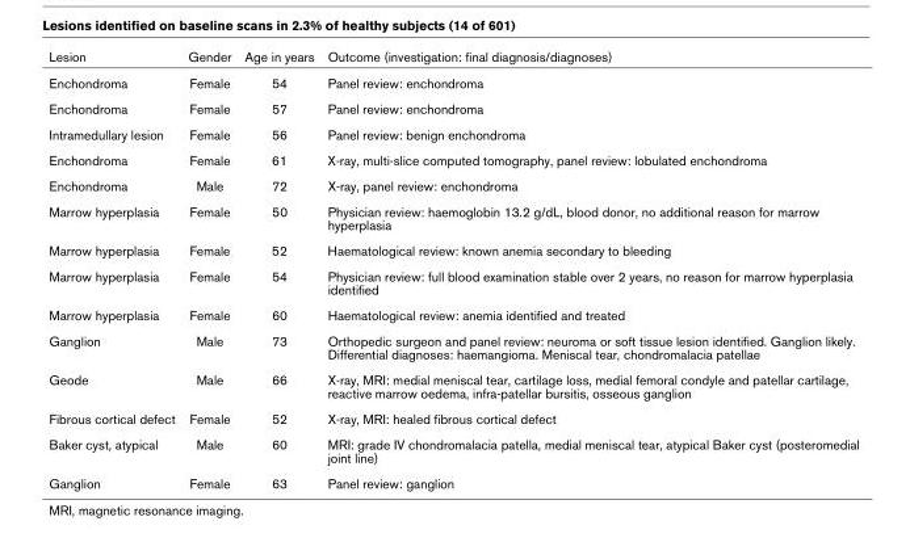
<table><thead><tr><td>Lesion</td><td>Gender</td><td>Age in years</td><td>Outcome (investigation: final diagnosis/diagnoses)</td></tr></thead><tbody><tr><td>Enchondroma</td><td>Female</td><td>54</td><td>Panel review: enchondroma</td></tr><tr><td>Enchondroma</td><td>Female</td><td>57</td><td>Panel review: enchondroma</td></tr><tr><td>Intramedullary lesion</td><td>Female</td><td>56</td><td>Panel review: benign enchondroma</td></tr><tr><td>Enchondroma</td><td>Female</td><td>61</td><td>X-ray, multi-slice computed tomography, panel review: lobulated enchondroma</td></tr><tr><td>Enchondroma</td><td>Male</td><td>72</td><td>X-ray, panel review: enchondroma</td></tr><tr><td>Marrow hyperplasia</td><td>Female</td><td>50</td><td>Physician review: haemoglobin 13.2 g/dL, blood donor, no additional reason for marrow hyperplasia</td></tr><tr><td>Marrow hyperplasia</td><td>Female</td><td>52</td><td>Haematological review: known anemia secondary to bleeding</td></tr><tr><td>Marrow hyperplasia</td><td>Female</td><td>54</td><td>Physician review: full blood examination stable over 2 years, no reason for marrow hyperplasia identified</td></tr><tr><td>Marrow hyperplasia</td><td>Female</td><td>60</td><td>Haematological review: anemia identified and treated</td></tr><tr><td>Ganglion</td><td>Male</td><td>73</td><td>Orthopedic surgeon and panel review: neuroma or soft tissue lesion identified. Ganglion likely. Differential diagnoses: haemangioma. Meniscal tear, chondromalacia patellae</td></tr><tr><td>Geode</td><td>Male</td><td>66</td><td>X-ray, MRI: medial meniscal tear, cartilage loss, medial femoral condyle and patellar cartilage, reactive marrow oedema, infra-patellar bursitis, osseous ganglion</td></tr><tr><td>Fibrous cortical defect</td><td>Female</td><td>52</td><td>X-ray, MRI: healed fibrous cortical defect</td></tr><tr><td>Baker cyst, atypical</td><td>Male</td><td>60</td><td>MRI: grade IV chondromalacia patella, medial meniscal tear, atypical Baker cyst (posteromedial joint line)</td></tr><tr><td>Ganglion</td><td>Female</td><td>63</td><td>Panel review: ganglion</td></tr></tbody></table>